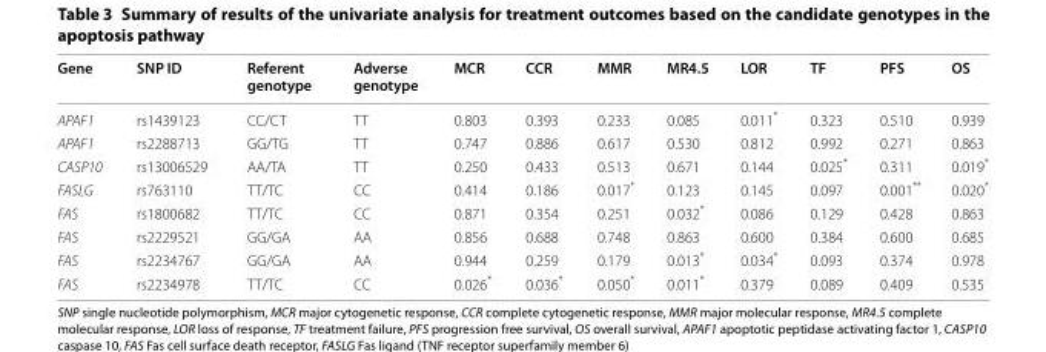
<table><thead><tr><td>Gene</td><td>SNP ID</td><td>Referent genotype</td><td>Adverse genotype</td><td>MCR</td><td>CCR</td><td>MMR</td><td>MR4.5</td><td>LOR</td><td>TF</td><td>PFS</td><td>OS</td></tr></thead><tbody><tr><td>APAF1</td><td>rs1439123</td><td>CC/CT</td><td>TT</td><td>0.803</td><td>0.393</td><td>0.233</td><td>0.085</td><td>0.011*</td><td>0.323</td><td>0.510</td><td>0.939</td></tr><tr><td>APAF1</td><td>rs2288713</td><td>GG/TG</td><td>TT</td><td>0.747</td><td>0.886</td><td>0.617</td><td>0.530</td><td>0.812</td><td>0.992</td><td>0.271</td><td>0.863</td></tr><tr><td>CASP10</td><td>rs13006529</td><td>AA/TA</td><td>TT</td><td>0.250</td><td>0.433</td><td>0.513</td><td>0.671</td><td>0.144</td><td>0.025*</td><td>0.311</td><td>0.019*</td></tr><tr><td>FASLG</td><td>rs763110</td><td>TT/TC</td><td>CC</td><td>0.414</td><td>0.186</td><td>0.017*</td><td>0.123</td><td>0.145</td><td>0.097</td><td>0.001**</td><td>0.020*</td></tr><tr><td>FAS</td><td>rs1800682</td><td>TT/TC</td><td>CC</td><td>0.871</td><td>0.354</td><td>0.251</td><td>0.032*</td><td>0.086</td><td>0.129</td><td>0.428</td><td>0.863</td></tr><tr><td>FAS</td><td>rs2229521</td><td>GG/GA</td><td>AA</td><td>0.856</td><td>0.688</td><td>0.748</td><td>0.863</td><td>0.600</td><td>0.384</td><td>0.600</td><td>0.685</td></tr><tr><td>FAS</td><td>rs2234767</td><td>GG/GA</td><td>AA</td><td>0.944</td><td>0.259</td><td>0.179</td><td>0.013*</td><td>0.034*</td><td>0.093</td><td>0.374</td><td>0.978</td></tr><tr><td>FAS</td><td>rs2234978</td><td>TT/TC</td><td>CC</td><td>0.026*</td><td>0.036*</td><td>0.050*</td><td>0.011*</td><td>0.379</td><td>0.089</td><td>0.409</td><td>0.535</td></tr></tbody></table>